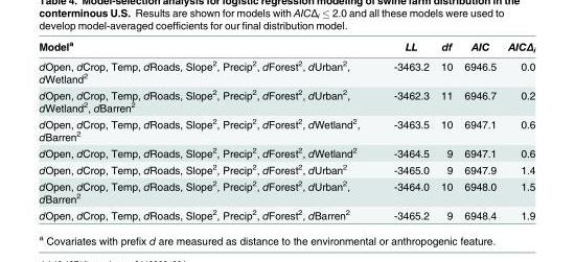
<table><thead><tr><td>Model<sup>a</sup></td><td>LL</td><td>df</td><td>AIC</td><td>AICΔ<sub>i</sub></td></tr></thead><tbody><tr><td>dOpen, dCrop, Temp, dRoads, Slope<sup>2</sup>, Precip<sup>2</sup>, dForest<sup>2</sup>, dUrban<sup>2</sup>, dWetland<sup>2</sup></td><td>-3463.2</td><td>10</td><td>6946.5</td><td>0.0</td></tr><tr><td>dOpen, dCrop, Temp, dRoads, Slope<sup>2</sup>, Precip<sup>2</sup>, dForest<sup>2</sup>, dUrban<sup>2</sup>, dWetland<sup>2</sup>, dBarren<sup>2</sup></td><td>-3462.3</td><td>11</td><td>6946.7</td><td>0.2</td></tr><tr><td>dOpen, dCrop, Temp, dRoads, Slope<sup>2</sup>, Precip<sup>2</sup>, dForest<sup>2</sup>, dWetland<sup>2</sup>, dBarren<sup>2</sup></td><td>-3463.5</td><td>10</td><td>6947.1</td><td>0.6</td></tr><tr><td>dOpen, dCrop, Temp, dRoads, Slope<sup>2</sup>, Precip<sup>2</sup>, dForest<sup>2</sup>, dWetland<sup>2</sup></td><td>-3464.5</td><td>9</td><td>6947.1</td><td>0.6</td></tr><tr><td>dOpen, dCrop, Temp, dRoads, Slope<sup>2</sup>, Precip<sup>2</sup>, dForest<sup>2</sup>, dUrban<sup>2</sup></td><td>-3465.0</td><td>9</td><td>6947.9</td><td>1.4</td></tr><tr><td>dOpen, dCrop, Temp, dRoads, Slope<sup>2</sup>, Precip<sup>2</sup>, dForest<sup>2</sup>, dUrban<sup>2</sup>, dBarren<sup>2</sup></td><td>-3464.0</td><td>10</td><td>6948.0</td><td>1.5</td></tr><tr><td>dOpen, dCrop, Temp, dRoads, Slope<sup>2</sup>, Precip<sup>2</sup>, dForest<sup>2</sup>, dBarren<sup>2</sup></td><td>-3465.2</td><td>9</td><td>6948.4</td><td>1.9</td></tr></tbody></table>